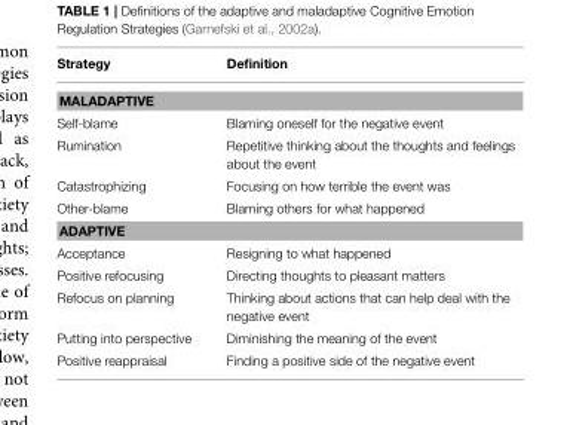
<table><thead><tr><td>Strategy</td><td>Definition</td></tr></thead><tbody><tr><td colspan="2">MALADAPTIVE</td></tr><tr><td>Self-blame</td><td>Blaming oneself for the negative event</td></tr><tr><td>Rumination</td><td>Repetitive thinking about the thoughts and feelings about the event</td></tr><tr><td>Catastrophizing</td><td>Focusing on how terrible the event was</td></tr><tr><td>Other-blame</td><td>Blaming others for what happened</td></tr><tr><td colspan="2">ADAPTIVE</td></tr><tr><td>Acceptance</td><td>Resigning to what happened</td></tr><tr><td>Positive refocusing</td><td>Directing thoughts to pleasant matters</td></tr><tr><td>Refocus on planning</td><td>Thinking about actions that can help deal with the negative event</td></tr><tr><td>Putting into perspective</td><td>Diminishing the meaning of the event</td></tr><tr><td>Positive reappraisal</td><td>Finding a positive side of the negative event</td></tr></tbody></table>